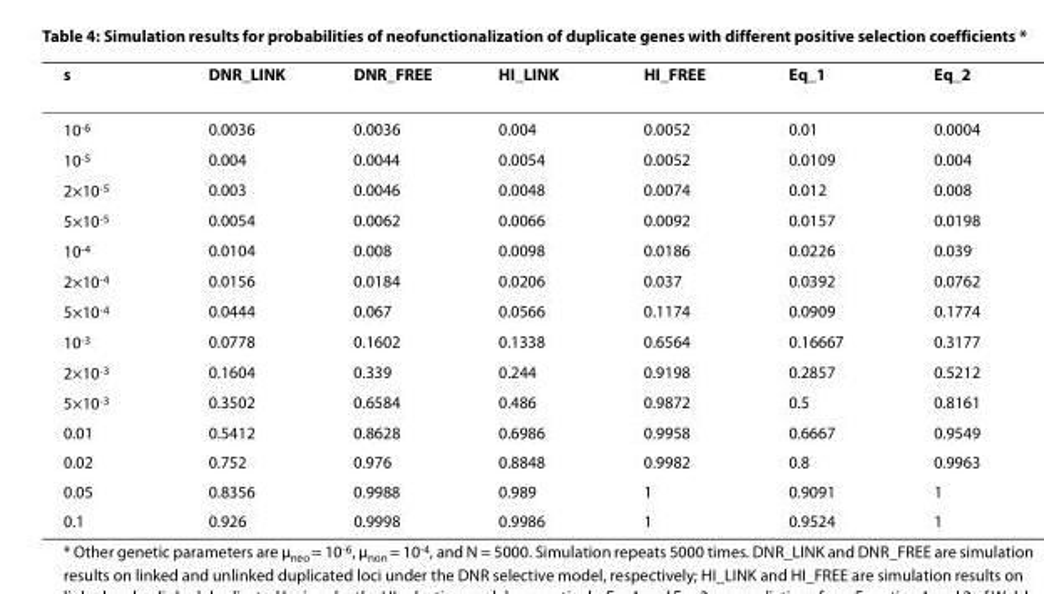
<table><thead><tr><td>s</td><td>DNR_LINK</td><td>DNR_FREE</td><td>HI_LINK</td><td>HI_FREE</td><td>Eq_1</td><td>Eq_2</td></tr></thead><tbody><tr><td>10<sup>-6</sup></td><td>0.0036</td><td>0.0036</td><td>0.004</td><td>0.0052</td><td>0.01</td><td>0.0004</td></tr><tr><td>10<sup>-5</sup></td><td>0.004</td><td>0.0044</td><td>0.0054</td><td>0.0052</td><td>0.0109</td><td>0.004</td></tr><tr><td>2×10<sup>-5</sup></td><td>0.003</td><td>0.0046</td><td>0.0048</td><td>0.0074</td><td>0.012</td><td>0.008</td></tr><tr><td>5×10<sup>-5</sup></td><td>0.0054</td><td>0.0062</td><td>0.0066</td><td>0.0092</td><td>0.0157</td><td>0.0198</td></tr><tr><td>10<sup>-4</sup></td><td>0.0104</td><td>0.008</td><td>0.0098</td><td>0.0186</td><td>0.0226</td><td>0.039</td></tr><tr><td>2×10<sup>-4</sup></td><td>0.0156</td><td>0.0184</td><td>0.0206</td><td>0.037</td><td>0.0392</td><td>0.0762</td></tr><tr><td>5×10<sup>-4</sup></td><td>0.0444</td><td>0.067</td><td>0.0566</td><td>0.1174</td><td>0.0909</td><td>0.1774</td></tr><tr><td>10<sup>-3</sup></td><td>0.0778</td><td>0.1602</td><td>0.1338</td><td>0.6564</td><td>0.16667</td><td>0.3177</td></tr><tr><td>2×10<sup>-3</sup></td><td>0.1604</td><td>0.339</td><td>0.244</td><td>0.9198</td><td>0.2857</td><td>0.5212</td></tr><tr><td>5×10<sup>-3</sup></td><td>0.3502</td><td>0.6584</td><td>0.486</td><td>0.9872</td><td>0.5</td><td>0.8161</td></tr><tr><td>0.01</td><td>0.5412</td><td>0.8628</td><td>0.6986</td><td>0.9958</td><td>0.6667</td><td>0.9549</td></tr><tr><td>0.02</td><td>0.752</td><td>0.976</td><td>0.8848</td><td>0.9982</td><td>0.8</td><td>0.9963</td></tr><tr><td>0.05</td><td>0.8356</td><td>0.9988</td><td>0.989</td><td>1</td><td>0.9091</td><td>1</td></tr><tr><td>0.1</td><td>0.926</td><td>0.9998</td><td>0.9986</td><td>1</td><td>0.9524</td><td>1</td></tr></tbody></table>